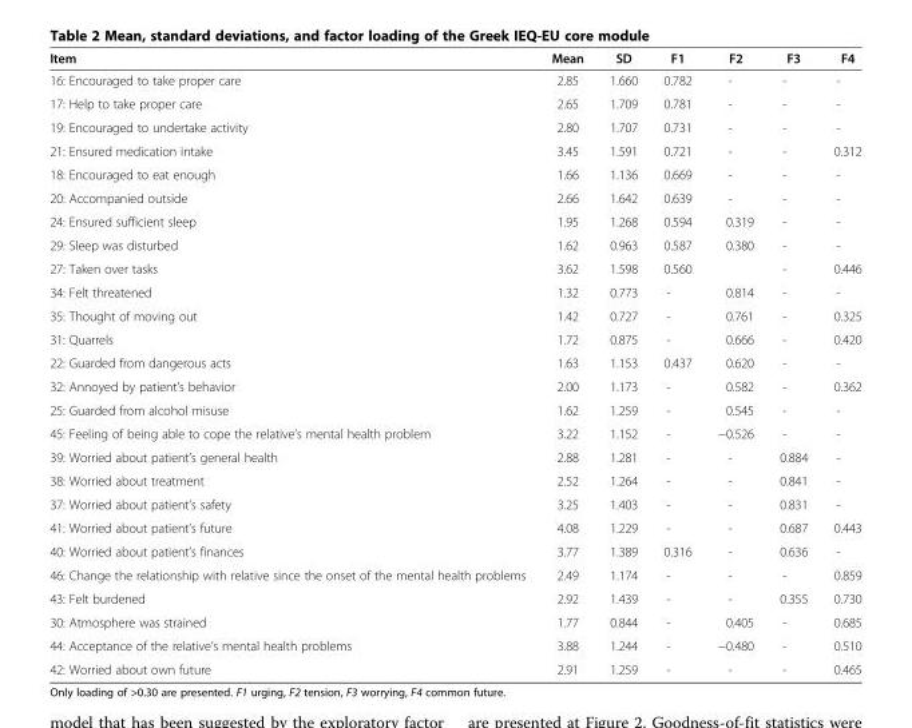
<table><thead><tr><td>Item</td><td>Mean</td><td>SD</td><td>F1</td><td>F2</td><td>F3</td><td>F4</td></tr></thead><tbody><tr><td>16: Encouraged to take proper care</td><td>2.85</td><td>1.660</td><td>0.782</td><td>-</td><td>-</td><td>-</td></tr><tr><td>17: Help to take proper care</td><td>2.65</td><td>1.709</td><td>0.781</td><td>-</td><td>-</td><td>-</td></tr><tr><td>19: Encouraged to undertake activity</td><td>2.80</td><td>1.707</td><td>0.731</td><td>-</td><td>-</td><td>-</td></tr><tr><td>21: Ensured medication intake</td><td>3.45</td><td>1.591</td><td>0.721</td><td>-</td><td>-</td><td>0.312</td></tr><tr><td>18: Encouraged to eat enough</td><td>1.66</td><td>1.136</td><td>0.669</td><td>-</td><td>-</td><td>-</td></tr><tr><td>20: Accompanied outside</td><td>2.66</td><td>1.642</td><td>0.639</td><td>-</td><td>-</td><td>-</td></tr><tr><td>24: Ensured sufficient sleep</td><td>1.95</td><td>1.268</td><td>0.594</td><td>0.319</td><td>-</td><td>-</td></tr><tr><td>29: Sleep was disturbed</td><td>1.62</td><td>0.963</td><td>0.587</td><td>0.380</td><td>-</td><td>-</td></tr><tr><td>27: Taken over tasks</td><td>3.62</td><td>1.598</td><td>0.560</td><td></td><td>-</td><td>0.446</td></tr><tr><td>34: Felt threatened</td><td>1.32</td><td>0.773</td><td>-</td><td>0.814</td><td>-</td><td>-</td></tr><tr><td>35: Thought of moving out</td><td>1.42</td><td>0.727</td><td>-</td><td>0.761</td><td>-</td><td>0.325</td></tr><tr><td>31: Quarrels</td><td>1.72</td><td>0.875</td><td>-</td><td>0.666</td><td>-</td><td>0.420</td></tr><tr><td>22: Guarded from dangerous acts</td><td>1.63</td><td>1.153</td><td>0.437</td><td>0.620</td><td>-</td><td>-</td></tr><tr><td>32: Annoyed by patient’s behavior</td><td>2.00</td><td>1.173</td><td>-</td><td>0.582</td><td>-</td><td>0.362</td></tr><tr><td>25: Guarded from alcohol misuse</td><td>1.62</td><td>1.259</td><td>-</td><td>0.545</td><td>-</td><td>-</td></tr><tr><td>45: Feeling of being able to cope the relative’s mental health problem</td><td>3.22</td><td>1.152</td><td>-</td><td>−0.526</td><td>-</td><td>-</td></tr><tr><td>39: Worried about patient’s general health</td><td>2.88</td><td>1.281</td><td>-</td><td>-</td><td>0.884</td><td>-</td></tr><tr><td>38: Worried about treatment</td><td>2.52</td><td>1.264</td><td>-</td><td>-</td><td>0.841</td><td>-</td></tr><tr><td>37: Worried about patient’s safety</td><td>3.25</td><td>1.403</td><td>-</td><td>-</td><td>0.831</td><td>-</td></tr><tr><td>41: Worried about patient’s future</td><td>4.08</td><td>1.229</td><td>-</td><td>-</td><td>0.687</td><td>0.443</td></tr><tr><td>40: Worried about patient’s finances</td><td>3.77</td><td>1.389</td><td>0.316</td><td>-</td><td>0.636</td><td>-</td></tr><tr><td>46: Change the relationship with relative since the onset of the mental health problems</td><td>2.49</td><td>1.174</td><td>-</td><td>-</td><td>-</td><td>0.859</td></tr><tr><td>43: Felt burdened</td><td>2.92</td><td>1.439</td><td>-</td><td>-</td><td>0.355</td><td>0.730</td></tr><tr><td>30: Atmosphere was strained</td><td>1.77</td><td>0.844</td><td>-</td><td>0.405</td><td>-</td><td>0.685</td></tr><tr><td>44: Acceptance of the relative’s mental health problems</td><td>3.88</td><td>1.244</td><td>-</td><td>−0.480</td><td>-</td><td>0.510</td></tr><tr><td>42: Worried about own future</td><td>2.91</td><td>1.259</td><td>-</td><td>-</td><td>-</td><td>0.465</td></tr></tbody></table>